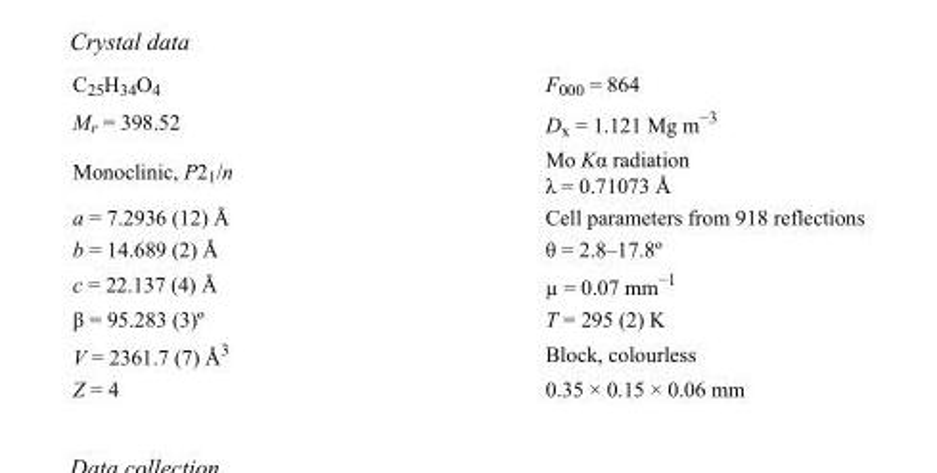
<table><tbody><tr><td>C<sub>25</sub>H<sub>34</sub>O<sub>4</sub></td><td>F000 = 864</td></tr><tr><td>M<sub>r</sub> = 398.52</td><td>D<sub>x</sub> = 1.121 Mg m<sup>−3</sup></td></tr><tr><td>Monoclinic, P2<sub>1</sub>/n</td><td>Mo Kα radiation λ = 0.71073 Å</td></tr><tr><td>a = 7.2936 (12) Å</td><td>Cell parameters from 918 reflections</td></tr><tr><td>b = 14.689 (2) Å</td><td>θ = 2.8–17.8º</td></tr><tr><td>c = 22.137 (4) Å</td><td>µ = 0.07 mm<sup>−1</sup></td></tr><tr><td>β = 95.283 (3)º</td><td>T = 295 (2) K</td></tr><tr><td>V = 2361.7 (7) Å<sup>3</sup></td><td>Block, colourless</td></tr><tr><td>Z = 4</td><td>0.35 × 0.15 × 0.06 mm</td></tr></tbody></table>